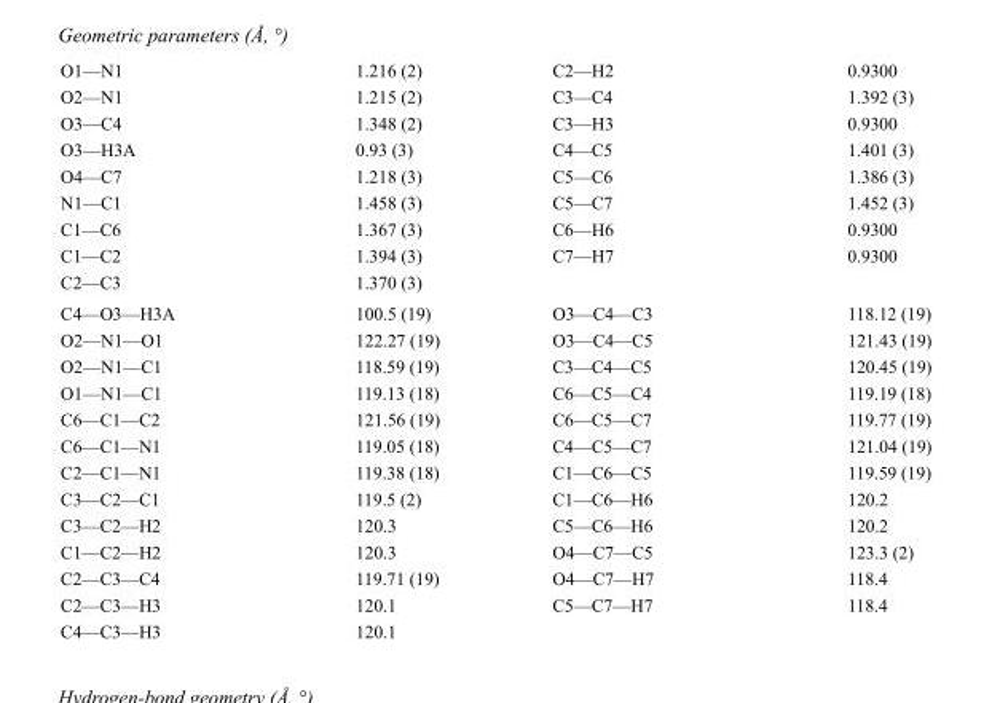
<table><tbody><tr><td>O1—N1</td><td>1.216 (2)</td><td>C2—H2</td><td>0.9300</td></tr><tr><td>O2—N1</td><td>1.215 (2)</td><td>C3—C4</td><td>1.392 (3)</td></tr><tr><td>O3—C4</td><td>1.348 (2)</td><td>C3—H3</td><td>0.9300</td></tr><tr><td>O3—H3A</td><td>0.93 (3)</td><td>C4—C5</td><td>1.401 (3)</td></tr><tr><td>O4—C7</td><td>1.218 (3)</td><td>C5—C6</td><td>1.386 (3)</td></tr><tr><td>N1—C1</td><td>1.458 (3)</td><td>C5—C7</td><td>1.452 (3)</td></tr><tr><td>C1—C6</td><td>1.367 (3)</td><td>C6—H6</td><td>0.9300</td></tr><tr><td>C1—C2</td><td>1.394 (3)</td><td>C7—H7</td><td>0.9300</td></tr><tr><td>C2—C3</td><td>1.370 (3)</td><td></td><td></td></tr><tr><td>C4—O3—H3A</td><td>100.5 (19)</td><td>O3—C4—C3</td><td>118.12 (19)</td></tr><tr><td>O2—N1—O1</td><td>122.27 (19)</td><td>O3—C4—C5</td><td>121.43 (19)</td></tr><tr><td>O2—N1—C1</td><td>118.59 (19)</td><td>C3—C4—C5</td><td>120.45 (19)</td></tr><tr><td>O1—N1—C1</td><td>119.13 (18)</td><td>C6—C5—C4</td><td>119.19 (18)</td></tr><tr><td>C6—C1—C2</td><td>121.56 (19)</td><td>C6—C5—C7</td><td>119.77 (19)</td></tr><tr><td>C6—C1—N1</td><td>119.05 (18)</td><td>C4—C5—C7</td><td>121.04 (19)</td></tr><tr><td>C2—C1—N1</td><td>119.38 (18)</td><td>C1—C6—C5</td><td>119.59 (19)</td></tr><tr><td>C3—C2—C1</td><td>119.5 (2)</td><td>C1—C6—H6</td><td>120.2</td></tr><tr><td>C3—C2—H2</td><td>120.3</td><td>C5—C6—H6</td><td>120.2</td></tr><tr><td>C1—C2—H2</td><td>120.3</td><td>O4—C7—C5</td><td>123.3 (2)</td></tr><tr><td>C2—C3—C4</td><td>119.71 (19)</td><td>O4—C7—H7</td><td>118.4</td></tr><tr><td>C2—C3—H3</td><td>120.1</td><td>C5—C7—H7</td><td>118.4</td></tr><tr><td>C4—C3—H3</td><td>120.1</td><td></td><td></td></tr></tbody></table>